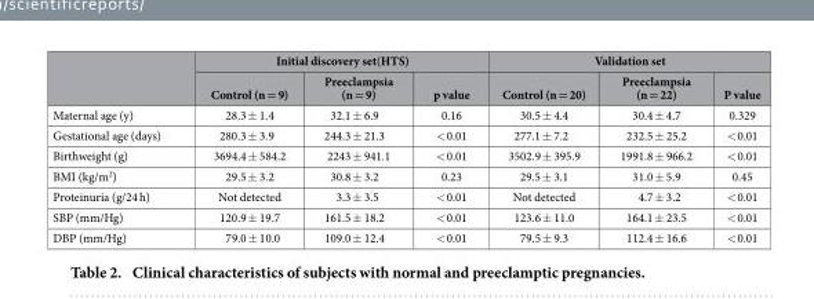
<table><thead><tr><td rowspan="2"></td><td colspan="3">Initial discovery set(HTS)</td><td colspan="3">Validation set</td></tr><tr><td>Control (n = 9)</td><td>Preeclampsia (n = 9)</td><td>p value</td><td>Control (n = 20)</td><td>Preeclampsia (n = 22)</td><td>P value</td></tr></thead><tbody><tr><td>Maternal age (y)</td><td>28.3 ± 1.4</td><td>32.1 ± 6.9</td><td>0.16</td><td>30.5 ± 4.4</td><td>30.4 ± 4.7</td><td>0.329</td></tr><tr><td>Gestational age (days)</td><td>280.3 ± 3.9</td><td>244.3 ± 21.3</td><td>&lt; 0.01</td><td>277.1 ± 7.2</td><td>232.5 ± 25.2</td><td>&lt; 0.01</td></tr><tr><td>Birthweight (g)</td><td>3694.4 ± 584.2</td><td>2243 ± 941.1</td><td>&lt; 0.01</td><td>3502.9 ± 395.9</td><td>1991.8 ± 966.2</td><td>&lt; 0.01</td></tr><tr><td>BMI (kg/m<sup>2</sup>)</td><td>29.5 ± 3.2</td><td>30.8 ± 3.2</td><td>0.23</td><td>29.5 ± 3.1</td><td>31.0 ± 5.9</td><td>0.45</td></tr><tr><td>Proteinuria (g/24 h)</td><td>Not detected</td><td>3.3 ± 3.5</td><td>&lt; 0.01</td><td>Not detected</td><td>4.7 ± 3.2</td><td>&lt; 0.01</td></tr><tr><td>SBP (mm/Hg)</td><td>120.9 ± 19.7</td><td>161.5 ± 18.2</td><td>&lt; 0.01</td><td>123.6 ± 11.0</td><td>164.1 ± 23.5</td><td>&lt; 0.01</td></tr><tr><td>DBP (mm/Hg)</td><td>79.0 ± 10.0</td><td>109.0 ± 12.4</td><td>&lt; 0.01</td><td>79.5 ± 9.3</td><td>112.4 ± 16.6</td><td>&lt; 0.01</td></tr></tbody></table>